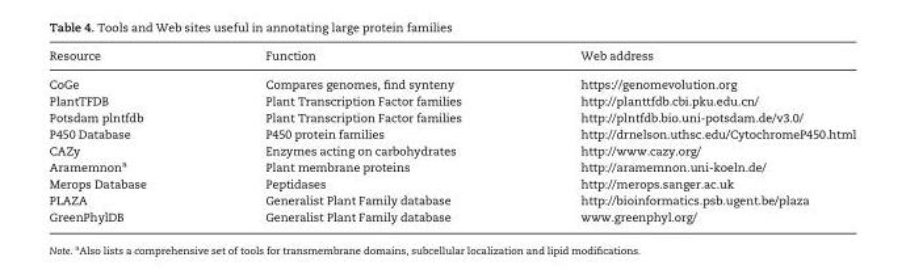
<table><thead><tr><td>Resource</td><td>Function</td><td>Web address</td></tr></thead><tbody><tr><td>CoGe</td><td>Compares genomes, find synteny</td><td>https://genomevolution.org</td></tr><tr><td>PlantTFDB</td><td>Plant Transcription Factor families</td><td>http://planttfdb.cbi.pku.edu.cn/</td></tr><tr><td>Potsdam plntfdb</td><td>Plant Transcription Factor families</td><td>http://plntfdb.bio.uni-potsdam.de/v3.0/</td></tr><tr><td>P450 Database</td><td>P450 protein families</td><td>http://drnelson.uthsc.edu/CytochromeP450.html</td></tr><tr><td>CAZy</td><td>Enzymes acting on carbohydrates</td><td>http://www.cazy.org/</td></tr><tr><td>Aramemnon<sup>a</sup></td><td>Plant membrane proteins</td><td>http://aramemnon.uni-koeln.de/</td></tr><tr><td>Merops Database</td><td>Peptidases</td><td>http://merops.sanger.ac.uk</td></tr><tr><td>PLAZA</td><td>Generalist Plant Family database</td><td>http://bioinformatics.psb.ugent.be/plaza</td></tr><tr><td>GreenPhylDB</td><td>Generalist Plant Family database</td><td>www.greenphyl.org/</td></tr></tbody></table>